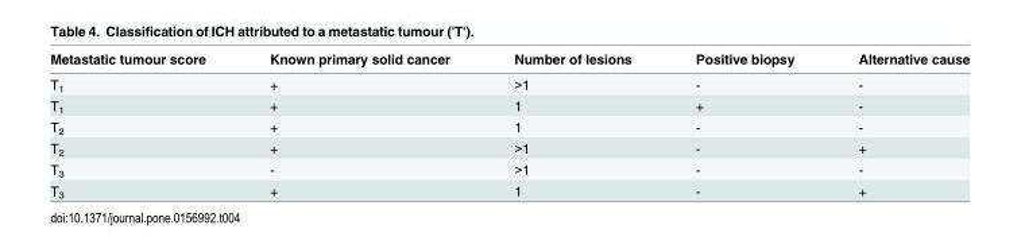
<table><thead><tr><td>Metastatic tumour score</td><td>Known primary solid cancer</td><td>Number of lesions</td><td>Positive biopsy</td><td>Alternative cause</td></tr></thead><tbody><tr><td>T<sub>1</sub></td><td>+</td><td>&gt;1</td><td>-</td><td>-</td></tr><tr><td>T<sub>1</sub></td><td>+</td><td>1</td><td>+</td><td>-</td></tr><tr><td>T<sub>2</sub></td><td>+</td><td>1</td><td>-</td><td>-</td></tr><tr><td>T<sub>2</sub></td><td>+</td><td>&gt;1</td><td>-</td><td>+</td></tr><tr><td>T<sub>3</sub></td><td>-</td><td>&gt;1</td><td>-</td><td>-</td></tr><tr><td>T<sub>3</sub></td><td>+</td><td>1</td><td>-</td><td>+</td></tr></tbody></table>